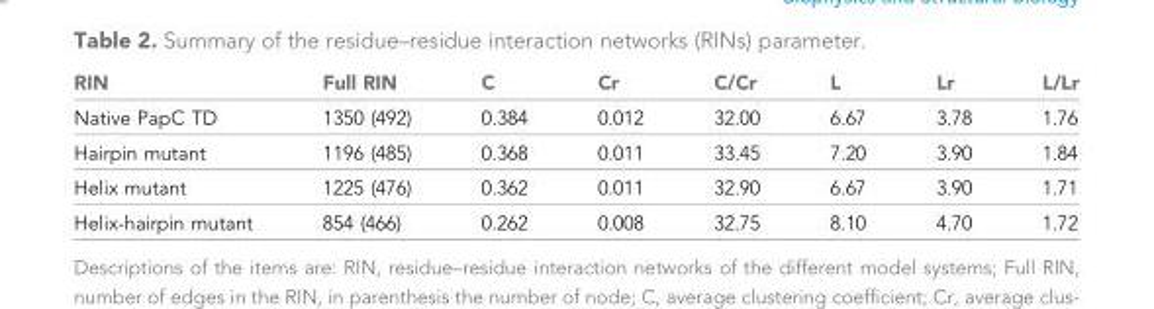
<table><thead><tr><td>RIN</td><td>Full RIN</td><td>C</td><td>Cr</td><td>C/Cr</td><td>L</td><td>Lr</td><td>L/Lr</td></tr></thead><tbody><tr><td>Native PapC TD</td><td>1350 (492)</td><td>0.384</td><td>0.012</td><td>32.00</td><td>6.67</td><td>3.78</td><td>1.76</td></tr><tr><td>Hairpin mutant</td><td>1196 (485)</td><td>0.368</td><td>0.011</td><td>33.45</td><td>7.20</td><td>3.90</td><td>1.84</td></tr><tr><td>Helix mutant</td><td>1225 (476)</td><td>0.362</td><td>0.011</td><td>32.90</td><td>6.67</td><td>3.90</td><td>1.71</td></tr><tr><td>Helix-hairpin mutant</td><td>854 (466)</td><td>0.262</td><td>0.008</td><td>32.75</td><td>8.10</td><td>4.70</td><td>1.72</td></tr></tbody></table>